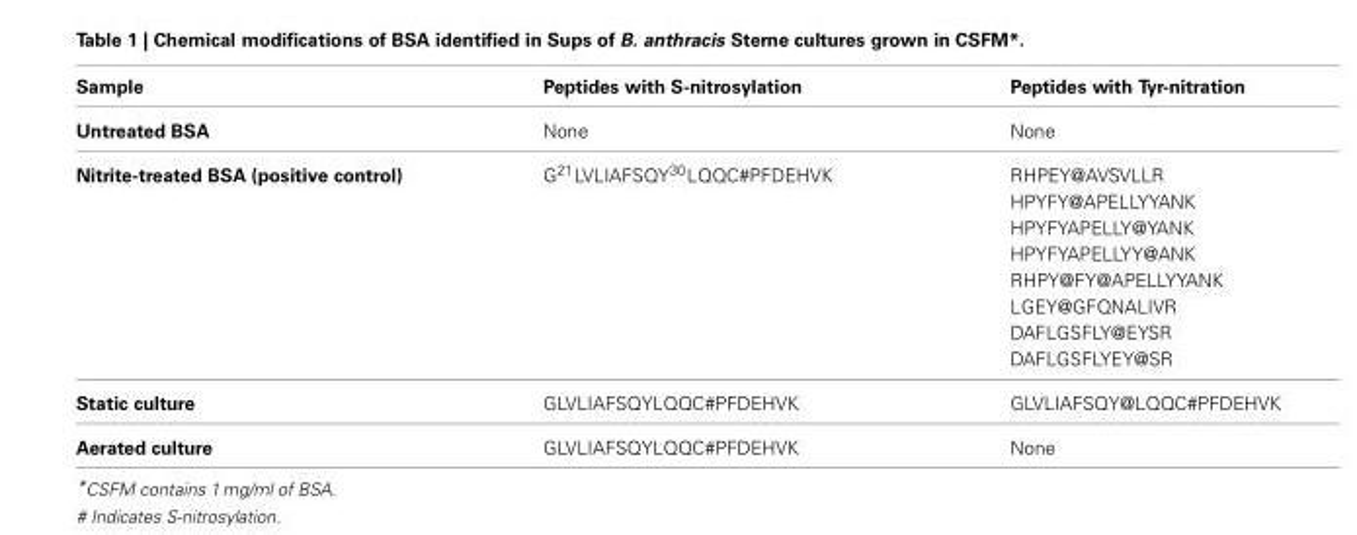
<table><thead><tr><td>Sample</td><td>Peptides with S-nitrosylation</td><td>Peptides with Tyr-nitration</td></tr></thead><tbody><tr><td>Untreated BSA</td><td>None</td><td>None</td></tr><tr><td rowspan="8">Nitrite-treated BSA (positive control)</td><td>G<sup>21</sup>LVLIAFSQY<sup>30</sup>LQQC#PFDEHVK</td><td>RHPEY@AVSVLLR</td></tr><tr><td></td><td>HPYFY@APELLYYANK</td></tr><tr><td></td><td>HPYFYAPELLY@YANK</td></tr><tr><td></td><td>HPYFYAPELLYY@ANK</td></tr><tr><td></td><td>RHPY@FY@APELLYYANK</td></tr><tr><td></td><td>LGEY@GFQNALIVR</td></tr><tr><td></td><td>DAFLGSFLY@EYSR</td></tr><tr><td></td><td>DAFLGSFLYEY@SR</td></tr><tr><td>Static culture</td><td>GLVLIAFSQYLQQC#PFDEHVK</td><td>GLVLIAFSQY@LQQC#PFDEHVK</td></tr><tr><td>Aerated culture</td><td>GLVLIAFSQYLQQC#PFDEHVK</td><td>None</td></tr></tbody></table>